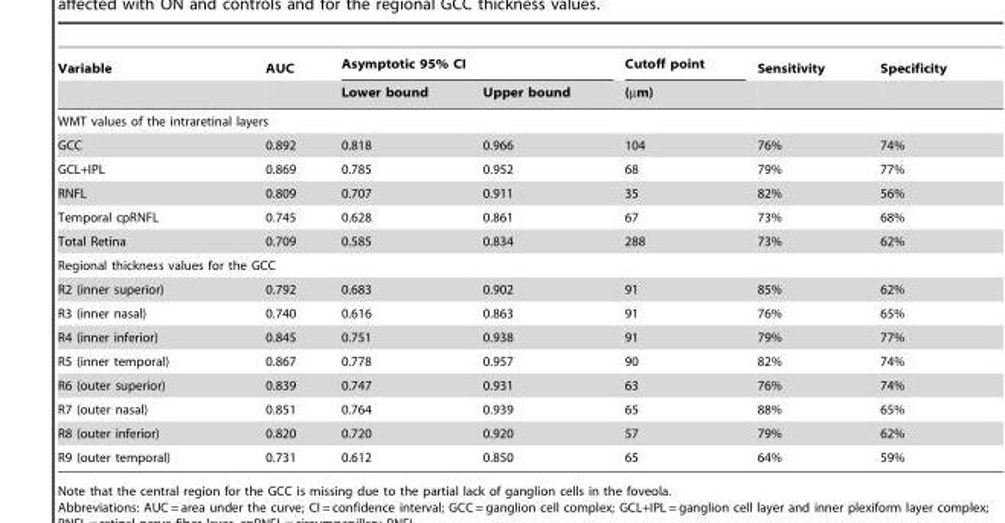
<table><thead><tr><td rowspan="2">Variable</td><td rowspan="2">AUC</td><td colspan="2">Asymptotic 95% CI</td><td rowspan="2">Cutoff point (µm)</td><td rowspan="2">Sensitivity</td><td rowspan="2">Specificity</td></tr><tr><td>Lower bound</td><td>Upper bound</td></tr></thead><tbody><tr><td colspan="7">WMT values of the intraretinal layers</td></tr><tr><td>GCC</td><td>0.892</td><td>0.818</td><td>0.966</td><td>104</td><td>76%</td><td>74%</td></tr><tr><td>GCL+IPL</td><td>0.869</td><td>0.785</td><td>0.952</td><td>68</td><td>79%</td><td>77%</td></tr><tr><td>RNFL</td><td>0.809</td><td>0.707</td><td>0.911</td><td>35</td><td>82%</td><td>56%</td></tr><tr><td>Temporal cpRNFL</td><td>0.745</td><td>0.628</td><td>0.861</td><td>67</td><td>73%</td><td>68%</td></tr><tr><td>Total Retina</td><td>0.709</td><td>0.585</td><td>0.834</td><td>288</td><td>73%</td><td>62%</td></tr><tr><td colspan="7">Regional thickness values for the GCC</td></tr><tr><td>R2 (inner superior)</td><td>0.792</td><td>0.683</td><td>0.902</td><td>91</td><td>85%</td><td>62%</td></tr><tr><td>R3 (inner nasal)</td><td>0.740</td><td>0.616</td><td>0.863</td><td>91</td><td>76%</td><td>65%</td></tr><tr><td>R4 (inner inferior)</td><td>0.845</td><td>0.751</td><td>0.938</td><td>91</td><td>79%</td><td>77%</td></tr><tr><td>R5 (inner temporal)</td><td>0.867</td><td>0.778</td><td>0.957</td><td>90</td><td>82%</td><td>74%</td></tr><tr><td>R6 (outer superior)</td><td>0.839</td><td>0.747</td><td>0.931</td><td>63</td><td>76%</td><td>74%</td></tr><tr><td>R7 (outer nasal)</td><td>0.851</td><td>0.764</td><td>0.939</td><td>65</td><td>88%</td><td>65%</td></tr><tr><td>R8 (outer inferior)</td><td>0.820</td><td>0.720</td><td>0.920</td><td>57</td><td>79%</td><td>62%</td></tr><tr><td>R9 (outer temporal)</td><td>0.731</td><td>0.612</td><td>0.850</td><td>65</td><td>64%</td><td>59%</td></tr></tbody></table>